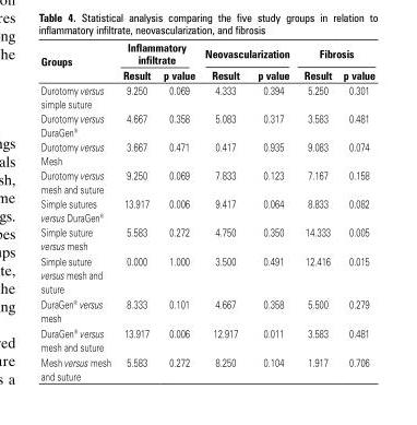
<table><thead><tr><td rowspan="2">Groups</td><td colspan="2">Inflammatory infiltrate</td><td colspan="2">Neovascularization</td><td colspan="2">Fibrosis</td></tr><tr><td>Result</td><td>p value</td><td>Result</td><td>p value</td><td>Result</td><td>p value</td></tr></thead><tbody><tr><td>Durotomy versus simple suture</td><td>9.250</td><td>0.069</td><td>4.333</td><td>0.394</td><td>5.250</td><td>0.301</td></tr><tr><td>Durotomy versus DuraGen<sup>®</sup></td><td>4.667</td><td>0.358</td><td>5.083</td><td>0.317</td><td>3.583</td><td>0.481</td></tr><tr><td>Durotomy versus Mesh</td><td>3.667</td><td>0.471</td><td>0.417</td><td>0.935</td><td>9.083</td><td>0.074</td></tr><tr><td>Durotomy versus mesh and suture</td><td>9.250</td><td>0.069</td><td>7.833</td><td>0.123</td><td>7.167</td><td>0.158</td></tr><tr><td>Simple sutures versus DuraGen<sup>®</sup></td><td>13.917</td><td>0.006</td><td>9.417</td><td>0.064</td><td>8.833</td><td>0.082</td></tr><tr><td>Simple suture versus mesh</td><td>5.583</td><td>0.272</td><td>4.750</td><td>0.350</td><td>14.333</td><td>0.005</td></tr><tr><td>Simple suture versus mesh and suture</td><td>0.000</td><td>1.000</td><td>3.500</td><td>0.491</td><td>12.416</td><td>0.015</td></tr><tr><td>DuraGen<sup>®</sup> versus mesh</td><td>8.333</td><td>0.101</td><td>4.667</td><td>0.358</td><td>5.500</td><td>0.279</td></tr><tr><td>DuraGen<sup>®</sup> versus mesh and suture</td><td>13.917</td><td>0.006</td><td>12.917</td><td>0.011</td><td>3.583</td><td>0.481</td></tr><tr><td>Mesh versus mesh and suture</td><td>5.583</td><td>0.272</td><td>8.250</td><td>0.104</td><td>1.917</td><td>0.706</td></tr></tbody></table>